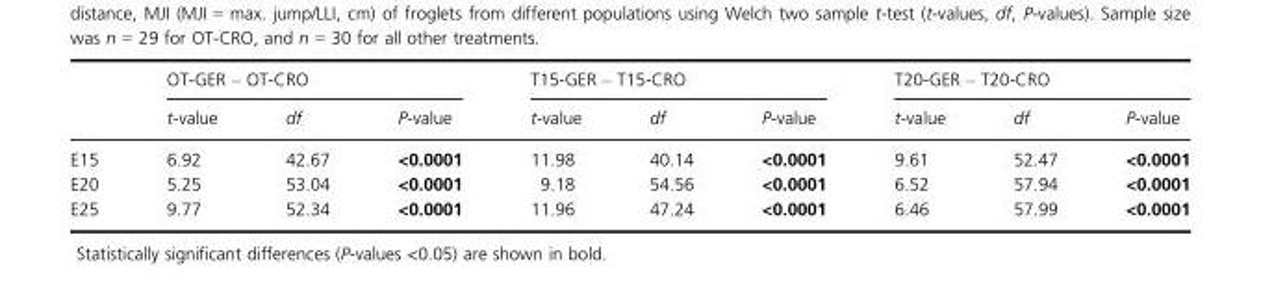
<table><thead><tr><td rowspan="2"></td><td colspan="3">OT-GER – OT-CRO</td><td colspan="3">T15-GER – T15-CRO</td><td colspan="3">T20-GER – T20-CRO</td></tr><tr><td>t-value</td><td>df</td><td>P-value</td><td>t-value</td><td>df</td><td>P-value</td><td>t-value</td><td>df</td><td>P-value</td></tr></thead><tbody><tr><td>E15</td><td>6.92</td><td>42.67</td><td>&lt;0.0001</td><td>11.98</td><td>40.14</td><td>&lt;0.0001</td><td>9.61</td><td>52.47</td><td>&lt;0.0001</td></tr><tr><td>E20</td><td>5.25</td><td>53.04</td><td>&lt;0.0001</td><td>9.18</td><td>54.56</td><td>&lt;0.0001</td><td>6.52</td><td>57.94</td><td>&lt;0.0001</td></tr><tr><td>E25</td><td>9.77</td><td>52.34</td><td>&lt;0.0001</td><td>11.96</td><td>47.24</td><td>&lt;0.0001</td><td>6.46</td><td>57.99</td><td>&lt;0.0001</td></tr></tbody></table>